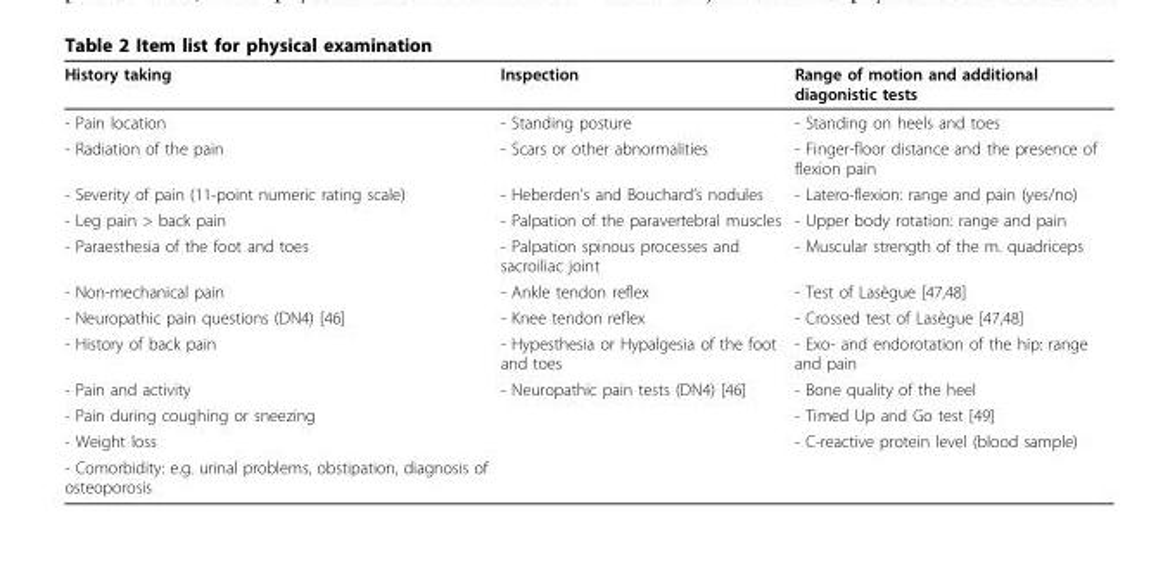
<table><thead><tr><td>History taking</td><td>Inspection</td><td>Range of motion and additional diagonistic tests</td></tr></thead><tbody><tr><td>- Pain location</td><td>- Standing posture</td><td>- Standing on heels and toes</td></tr><tr><td>- Radiation of the pain</td><td>- Scars or other abnormalities</td><td>- Finger-floor distance and the presence of flexion pain</td></tr><tr><td>- Severity of pain (11-point numeric rating scale)</td><td>- Heberden’s and Bouchard’s nodules</td><td>- Latero-flexion: range and pain (yes/no)</td></tr><tr><td>- Leg pain &gt; back pain</td><td>- Palpation of the paravertebral muscles</td><td>- Upper body rotation: range and pain</td></tr><tr><td>- Paraesthesia of the foot and toes</td><td>- Palpation spinous processes and sacroiliac joint</td><td>- Muscular strength of the m. quadriceps</td></tr><tr><td>- Non-mechanical pain</td><td>- Ankle tendon reflex</td><td>- Test of Lasègue [47,48]</td></tr><tr><td>- Neuropathic pain questions (DN4) [46]</td><td>- Knee tendon reflex</td><td>- Crossed test of Lasègue [47,48]</td></tr><tr><td>- History of back pain</td><td>- Hypesthesia or Hypalgesia of the foot and toes</td><td>- Exo- and endorotation of the hip: range and pain</td></tr><tr><td>- Pain and activity</td><td>- Neuropathic pain tests (DN4) [46]</td><td>- Bone quality of the heel</td></tr><tr><td>- Pain during coughing or sneezing</td><td></td><td>- Timed Up and Go test [49]</td></tr><tr><td>- Weight loss</td><td></td><td>- C-reactive protein level (blood sample)</td></tr><tr><td>- Comorbidity: e.g. urinal problems, obstipation, diagnosis of osteoporosis</td><td></td><td></td></tr></tbody></table>